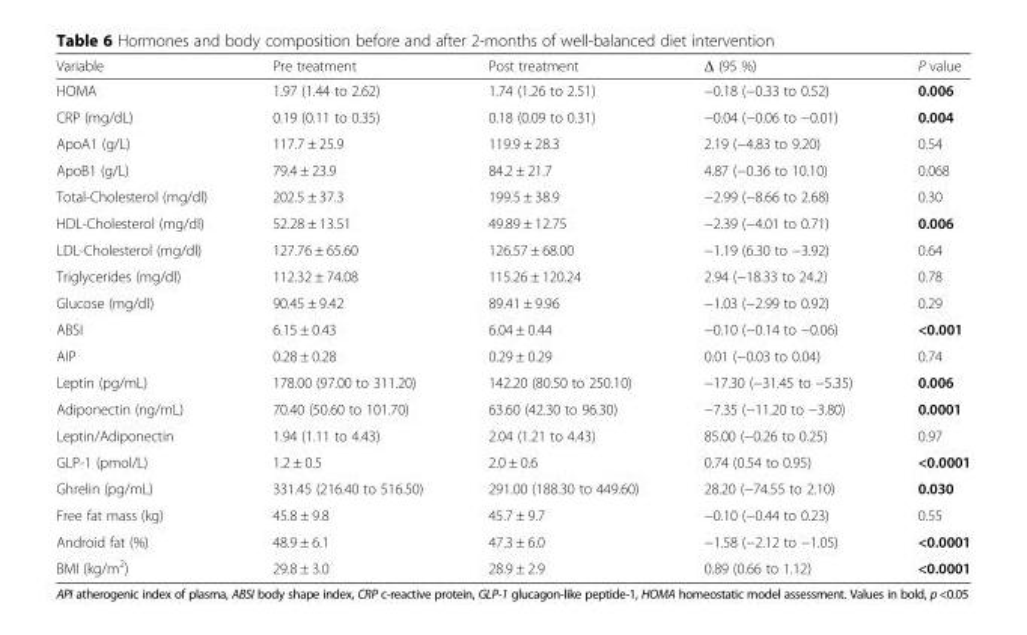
<table><thead><tr><td>Variable</td><td>Pre treatment</td><td>Post treatment</td><td>Δ (95 %)</td><td>P value</td></tr></thead><tbody><tr><td>HOMA</td><td>1.97 (1.44 to 2.62)</td><td>1.74 (1.26 to 2.51)</td><td>−0.18 (−0.33 to 0.52)</td><td>0.006</td></tr><tr><td>CRP (mg/dL)</td><td>0.19 (0.11 to 0.35)</td><td>0.18 (0.09 to 0.31)</td><td>−0.04 (−0.06 to −0.01)</td><td>0.004</td></tr><tr><td>ApoA1 (g/L)</td><td>117.7 ± 25.9</td><td>119.9 ± 28.3</td><td>2.19 (−4.83 to 9.20)</td><td>0.54</td></tr><tr><td>ApoB1 (g/L)</td><td>79.4 ± 23.9</td><td>84.2 ± 21.7</td><td>4.87 (−0.36 to 10.10)</td><td>0.068</td></tr><tr><td>Total-Cholesterol (mg/dl)</td><td>202.5 ± 37.3</td><td>199.5 ± 38.9</td><td>−2.99 (−8.66 to 2.68)</td><td>0.30</td></tr><tr><td>HDL-Cholesterol (mg/dl)</td><td>52.28 ± 13.51</td><td>49.89 ± 12.75</td><td>−2.39 (−4.01 to 0.71)</td><td>0.006</td></tr><tr><td>LDL-Cholesterol (mg/dl)</td><td>127.76 ± 65.60</td><td>126.57 ± 68.00</td><td>−1.19 (6.30 to −3.92)</td><td>0.64</td></tr><tr><td>Triglycerides (mg/dl)</td><td>112.32 ± 74.08</td><td>115.26 ± 120.24</td><td>2.94 (−18.33 to 24.2)</td><td>0.78</td></tr><tr><td>Glucose (mg/dl)</td><td>90.45 ± 9.42</td><td>89.41 ± 9.96</td><td>−1.03 (−2.99 to 0.92)</td><td>0.29</td></tr><tr><td>ABSI</td><td>6.15 ± 0.43</td><td>6.04 ± 0.44</td><td>−0.10 (−0.14 to −0.06)</td><td>&lt;0.001</td></tr><tr><td>AIP</td><td>0.28 ± 0.28</td><td>0.29 ± 0.29</td><td>0.01 (−0.03 to 0.04)</td><td>0.74</td></tr><tr><td>Leptin (pg/mL)</td><td>178.00 (97.00 to 311.20)</td><td>142.20 (80.50 to 250.10)</td><td>−17.30 (−31.45 to −5.35)</td><td>0.006</td></tr><tr><td>Adiponectin (ng/mL)</td><td>70.40 (50.60 to 101.70)</td><td>63.60 (42.30 to 96.30)</td><td>−7.35 (−11.20 to −3.80)</td><td>0.0001</td></tr><tr><td>Leptin/Adiponectin</td><td>1.94 (1.11 to 4.43)</td><td>2.04 (1.21 to 4.43)</td><td>85.00 (−0.26 to 0.25)</td><td>0.97</td></tr><tr><td>GLP-1 (pmol/L)</td><td>1.2 ± 0.5</td><td>2.0 ± 0.6</td><td>0.74 (0.54 to 0.95)</td><td>&lt;0.0001</td></tr><tr><td>Ghrelin (pg/mL)</td><td>331.45 (216.40 to 516.50)</td><td>291.00 (188.30 to 449.60)</td><td>28.20 (−74.55 to 2.10)</td><td>0.030</td></tr><tr><td>Free fat mass (kg)</td><td>45.8 ± 9.8</td><td>45.7 ± 9.7</td><td>−0.10 (−0.44 to 0.23)</td><td>0.55</td></tr><tr><td>Android fat (%)</td><td>48.9 ± 6.1</td><td>47.3 ± 6.0</td><td>−1.58 (−2.12 to −1.05)</td><td>&lt;0.0001</td></tr><tr><td>BMI (kg/m<sup>2</sup>)</td><td>29.8 ± 3.0</td><td>28.9 ± 2.9</td><td>0.89 (0.66 to 1.12)</td><td>&lt;0.0001</td></tr></tbody></table>